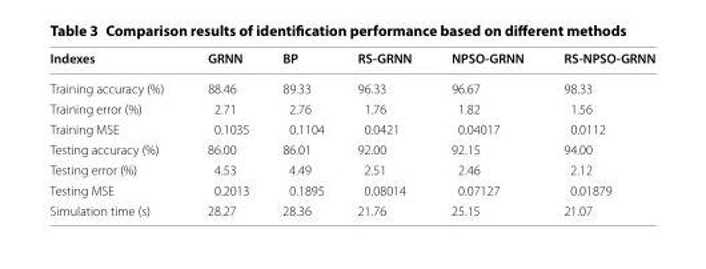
<table><thead><tr><td>Indexes</td><td>GRNN</td><td>BP</td><td>RS‑GRNN</td><td>NPSO‑GRNN</td><td>RS‑NPSO‑GRNN</td></tr></thead><tbody><tr><td>Training accuracy (%)</td><td>88.46</td><td>89.33</td><td>96.33</td><td>96.67</td><td>98.33</td></tr><tr><td>Training error (%)</td><td>2.71</td><td>2.76</td><td>1.76</td><td>1.82</td><td>1.56</td></tr><tr><td>Training MSE</td><td>0.1035</td><td>0.1104</td><td>0.0421</td><td>0.04017</td><td>0.0112</td></tr><tr><td>Testing accuracy (%)</td><td>86.00</td><td>86.01</td><td>92.00</td><td>92.15</td><td>94.00</td></tr><tr><td>Testing error (%)</td><td>4.53</td><td>4.49</td><td>2.51</td><td>2.46</td><td>2.12</td></tr><tr><td>Testing MSE</td><td>0.2013</td><td>0.1895</td><td>0.08014</td><td>0.07127</td><td>0.01879</td></tr><tr><td>Simulation time (s)</td><td>28.27</td><td>28.36</td><td>21.76</td><td>25.15</td><td>21.07</td></tr></tbody></table>